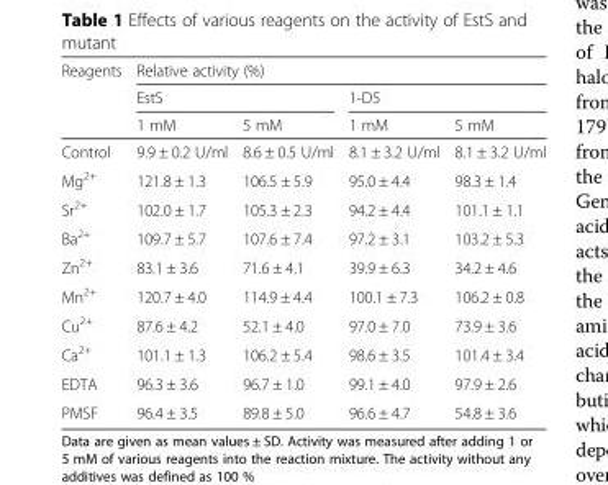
<table><thead><tr><td rowspan="3">Reagents</td><td colspan="4">Relative activity (%)</td></tr><tr><td colspan="2">EstS</td><td colspan="2">1-D5</td></tr><tr><td>1 mM</td><td>5 mM</td><td>1 mM</td><td>5 mM</td></tr></thead><tbody><tr><td>Control</td><td>9.9 ± 0.2 U/ml</td><td>8.6 ± 0.5 U/ml</td><td>8.1 ± 3.2 U/ml</td><td>8.1 ± 3.2 U/ml</td></tr><tr><td>Mg<sup>2+</sup></td><td>121.8 ± 1.3</td><td>106.5 ± 5.9</td><td>95.0 ± 4.4</td><td>98.3 ± 1.4</td></tr><tr><td>Sr<sup>2+</sup></td><td>102.0 ± 1.7</td><td>105.3 ± 2.3</td><td>94.2 ± 4.4</td><td>101.1 ± 1.1</td></tr><tr><td>Ba<sup>2+</sup></td><td>109.7 ± 5.7</td><td>107.6 ± 7.4</td><td>97.2 ± 3.1</td><td>103.2 ± 5.3</td></tr><tr><td>Zn<sup>2+</sup></td><td>83.1 ± 3.6</td><td>71.6 ± 4.1</td><td>39.9 ± 6.3</td><td>34.2 ± 4.6</td></tr><tr><td>Mn<sup>2+</sup></td><td>120.7 ± 4.0</td><td>114.9 ± 4.4</td><td>100.1 ± 7.3</td><td>106.2 ± 0.8</td></tr><tr><td>Cu<sup>2+</sup></td><td>87.6 ± 4.2</td><td>52.1 ± 4.0</td><td>97.0 ± 7.0</td><td>73.9 ± 3.6</td></tr><tr><td>Ca<sup>2+</sup></td><td>101.1 ± 1.3</td><td>106.2 ± 5.4</td><td>98.6 ± 3.5</td><td>101.4 ± 3.4</td></tr><tr><td>EDTA</td><td>96.3 ± 3.6</td><td>96.7 ± 1.0</td><td>99.1 ± 4.0</td><td>97.9 ± 2.6</td></tr><tr><td>PMSF</td><td>96.4 ± 3.5</td><td>89.8 ± 5.0</td><td>96.6 ± 4.7</td><td>54.8 ± 3.6</td></tr></tbody></table>